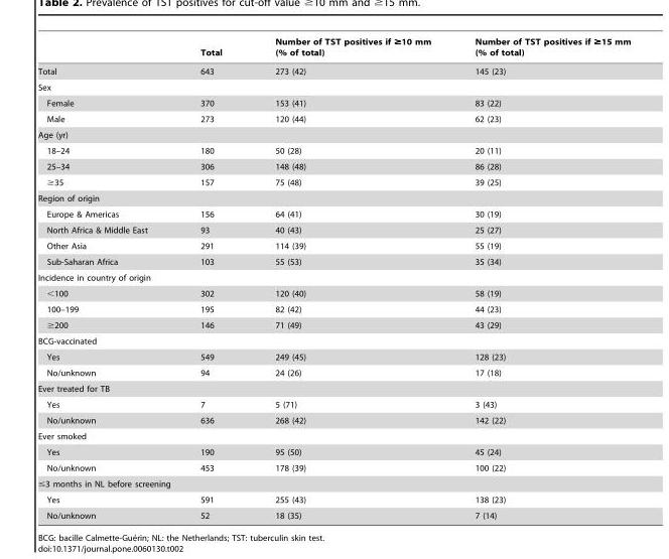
<table><thead><tr><td></td><td>Total</td><td>Number of TST positives if ≥10 mm (% of total)</td><td>Number of TST positives if ≥15 mm (% of total)</td></tr></thead><tbody><tr><td>Total</td><td>643</td><td>273 (42)</td><td>145 (23)</td></tr><tr><td colspan="4">Sex</td></tr><tr><td>Female</td><td>370</td><td>153 (41)</td><td>83 (22)</td></tr><tr><td>Male</td><td>273</td><td>120 (44)</td><td>62 (23)</td></tr><tr><td colspan="4">Age (yr)</td></tr><tr><td>18–24</td><td>180</td><td>50 (28)</td><td>20 (11)</td></tr><tr><td>25–34</td><td>306</td><td>148 (48)</td><td>86 (28)</td></tr><tr><td>≥35</td><td>157</td><td>75 (48)</td><td>39 (25)</td></tr><tr><td colspan="4">Region of origin</td></tr><tr><td>Europe &amp; Americas</td><td>156</td><td>64 (41)</td><td>30 (19)</td></tr><tr><td>North Africa &amp; Middle East</td><td>93</td><td>40 (43)</td><td>25 (27)</td></tr><tr><td>Other Asia</td><td>291</td><td>114 (39)</td><td>55 (19)</td></tr><tr><td>Sub-Saharan Africa</td><td>103</td><td>55 (53)</td><td>35 (34)</td></tr><tr><td colspan="4">Incidence in country of origin</td></tr><tr><td>&lt;100</td><td>302</td><td>120 (40)</td><td>58 (19)</td></tr><tr><td>100–199</td><td>195</td><td>82 (42)</td><td>44 (23)</td></tr><tr><td>≥200</td><td>146</td><td>71 (49)</td><td>43 (29)</td></tr><tr><td colspan="4">BCG-vaccinated</td></tr><tr><td>Yes</td><td>549</td><td>249 (45)</td><td>128 (23)</td></tr><tr><td>No/unknown</td><td>94</td><td>24 (26)</td><td>17 (18)</td></tr><tr><td colspan="4">Ever treated for TB</td></tr><tr><td>Yes</td><td>7</td><td>5 (71)</td><td>3 (43)</td></tr><tr><td>No/unknown</td><td>636</td><td>268 (42)</td><td>142 (22)</td></tr><tr><td colspan="4">Ever smoked</td></tr><tr><td>Yes</td><td>190</td><td>95 (50)</td><td>45 (24)</td></tr><tr><td>No/unknown</td><td>453</td><td>178 (39)</td><td>100 (22)</td></tr><tr><td colspan="4">≤3 months in NL before screening</td></tr><tr><td>Yes</td><td>591</td><td>255 (43)</td><td>138 (23)</td></tr><tr><td>No/unknown</td><td>52</td><td>18 (35)</td><td>7 (14)</td></tr></tbody></table>